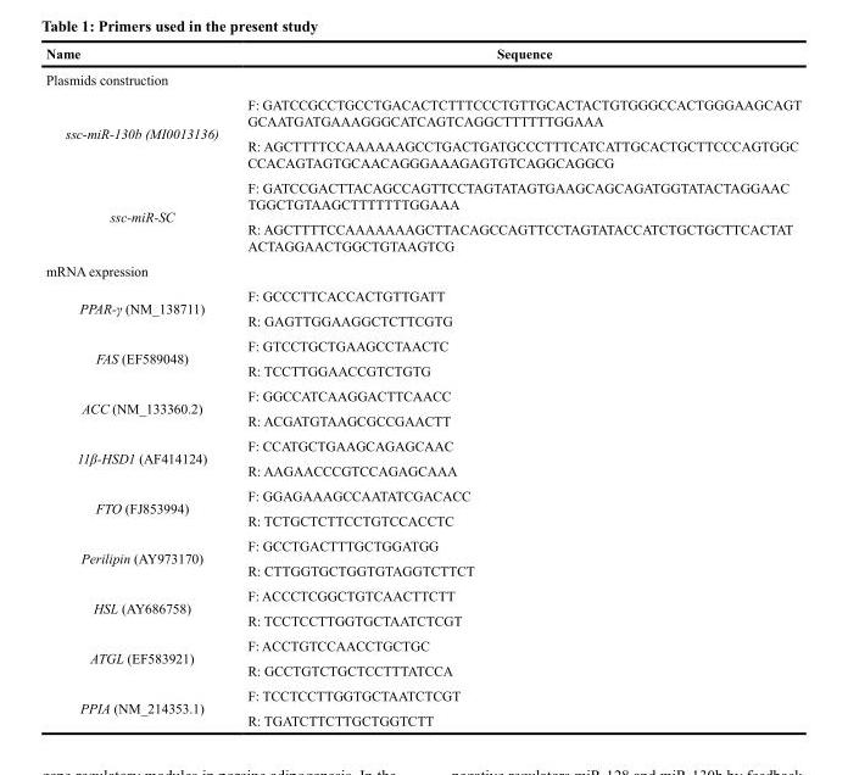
<table><thead><tr><td>Name</td><td>Sequence</td></tr></thead><tbody><tr><td colspan="2">Plasmids construction</td></tr><tr><td rowspan="2">ssc-miR-130b (MI0013136)</td><td>F: GATCCGCCTGCCTGACACTCTTTCCCTGTTGCACTACTGTGGGCCACTGGGAAGCAGT GCAATGATGAAAGGGCATCAGTCAGGCTTTTTTGGAAA</td></tr><tr><td>R: AGCTTTTCCAAAAAAGCCTGACTGATGCCCTTTCATCATTGCACTGCTTCCCAGTGGC CCACAGTAGTGCAACAGGGAAAGAGTGTCAGGCAGGCG</td></tr><tr><td rowspan="2">ssc-miR-SC</td><td>F: GATCCGACTTACAGCCAGTTCCTAGTATAGTGAAGCAGCAGATGGTATACTAGGAAC TGGCTGTAAGCTTTTTTTGGAAA</td></tr><tr><td>R: AGCTTTTCCAAAAAAAGCTTACAGCCAGTTCCTAGTATACCATCTGCTGCTTCACTAT ACTAGGAACTGGCTGTAAGTCG</td></tr><tr><td colspan="2">mRNA expression</td></tr><tr><td rowspan="2">PPAR-γ (NM_138711)</td><td>F: GCCCTTCACCACTGTTGATT</td></tr><tr><td>R: GAGTTGGAAGGCTCTTCGTG</td></tr><tr><td rowspan="2">FAS (EF589048)</td><td>F: GTCCTGCTGAAGCCTAACTC</td></tr><tr><td>R: TCCTTGGAACCGTCTGTG</td></tr><tr><td rowspan="2">ACC (NM_133360.2)</td><td>F: GGCCATCAAGGACTTCAACC</td></tr><tr><td>R: ACGATGTAAGCGCCGAACTT</td></tr><tr><td rowspan="2">11β-HSD1 (AF414124)</td><td>F: CCATGCTGAAGCAGAGCAAC</td></tr><tr><td>R: AAGAACCCGTCCAGAGCAAA</td></tr><tr><td rowspan="2">FTO (FJ853994)</td><td>F: GGAGAAAGCCAATATCGACACC</td></tr><tr><td>R: TCTGCTCTTCCTGTCCACCTC</td></tr><tr><td rowspan="2">Perilipin (AY973170)</td><td>F: GCCTGACTTTGCTGGATGG</td></tr><tr><td>R: CTTGGTGCTGGTGTAGGTCTTCT</td></tr><tr><td rowspan="2">HSL (AY686758)</td><td>F: ACCCTCGGCTGTCAACTTCTT</td></tr><tr><td>R: TCCTCCTTGGTGCTAATCTCGT</td></tr><tr><td rowspan="2">ATGL (EF583921)</td><td>F: ACCTGTCCAACCTGCTGC</td></tr><tr><td>R: GCCTGTCTGCTCCTTTATCCA</td></tr><tr><td rowspan="2">PPIA (NM_214353.1)</td><td>F: TCCTCCTTGGTGCTAATCTCGT</td></tr><tr><td>R: TGATCTTCTTGCTGGTCTT</td></tr></tbody></table>